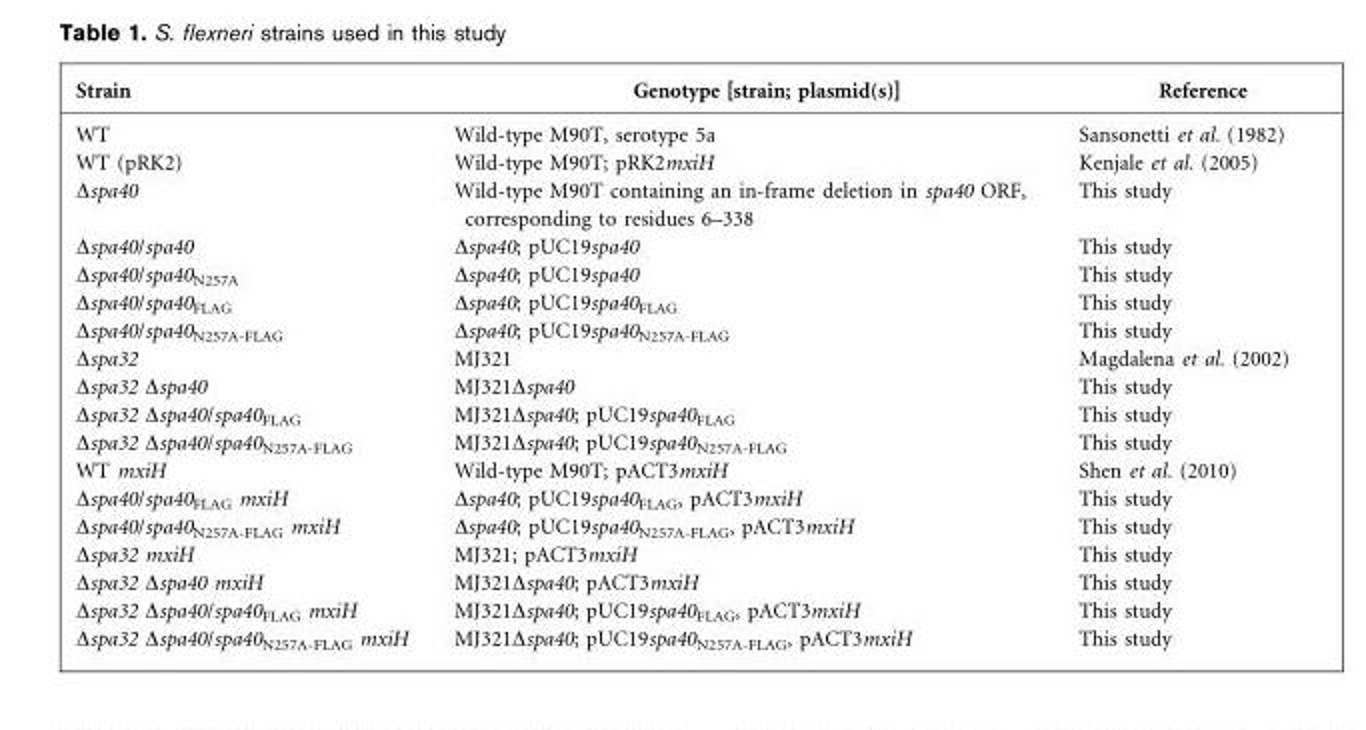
<table><thead><tr><td>Strain</td><td>Genotype [strain; plasmid(s)]</td><td>Reference</td></tr></thead><tbody><tr><td>WT</td><td>Wild-type M90T, serotype 5a</td><td>Sansonetti et al. (1982)</td></tr><tr><td>WT (pRK2)</td><td>Wild-type M90T; pRK2mxiH</td><td>Kenjale et al. (2005)</td></tr><tr><td>Δspa40</td><td>Wild-type M90T containing an in-frame deletion in spa40 ORF, corresponding to residues 6–338</td><td>This study</td></tr><tr><td>Δspa40/spa40</td><td>Δspa40; pUC19spa40</td><td>This study</td></tr><tr><td>Δspa40/spa40<sub>N257A</sub></td><td>Δspa40; pUC19spa40</td><td>This study</td></tr><tr><td>Δspa40/spa40<sub>FLAG</sub></td><td>Δspa40; pUC19spa40<sub>FLAG</sub></td><td>This study</td></tr><tr><td>Δspa40/spa40<sub>N257A-FLAG</sub></td><td>Δspa40; pUC19spa40<sub>N257A-FLAG</sub></td><td>This study</td></tr><tr><td>Δspa32</td><td>MJ321</td><td>Magdalena et al. (2002)</td></tr><tr><td>Δspa32 Δspa40</td><td>MJ321Δspa40</td><td>This study</td></tr><tr><td>Δspa32 Δspa40/spa40<sub>FLAG</sub></td><td>MJ321Δspa40; pUC19spa40<sub>FLAG</sub></td><td>This study</td></tr><tr><td>Δspa32 Δspa40/spa40<sub>N257A-FLAG</sub></td><td>MJ321Δspa40; pUC19spa40<sub>N257A-FLAG</sub></td><td>This study</td></tr><tr><td>WT mxiH</td><td>Wild-type M90T; pACT3mxiH</td><td>Shen et al. (2010)</td></tr><tr><td>Δspa40/spa40<sub>FLAG</sub> mxiH</td><td>Δspa40; pUC19spa40<sub>FLAG</sub>, pACT3mxiH</td><td>This study</td></tr><tr><td>Δspa40/spa40<sub>N257A-FLAG</sub> mxiH</td><td>Δspa40; pUC19spa40<sub>N257A-FLAG</sub>, pACT3mxiH</td><td>This study</td></tr><tr><td>Δspa32 mxiH</td><td>MJ321; pACT3mxiH</td><td>This study</td></tr><tr><td>Δspa32 Δspa40 mxiH</td><td>MJ321Δspa40; pACT3mxiH</td><td>This study</td></tr><tr><td>Δspa32 Δspa40/spa40<sub>FLAG</sub> mxiH</td><td>MJ321Δspa40; pUC19spa40<sub>FLAG</sub>, pACT3mxiH</td><td>This study</td></tr><tr><td>Δspa32 Δspa40/spa40<sub>N257A-FLAG</sub> mxiH</td><td>MJ321Δspa40; pUC19spa40<sub>N257A-FLAG</sub>, pACT3mxiH</td><td>This study</td></tr></tbody></table>